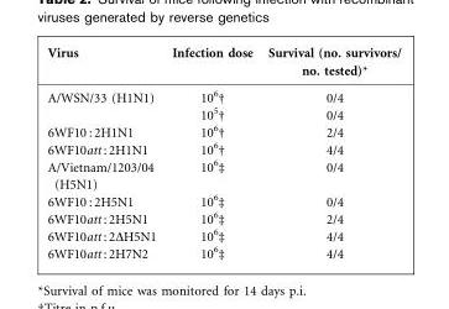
<table><thead><tr><td>Virus</td><td>Infection dose</td><td>Survival (no. survivors/ no. tested)*</td></tr></thead><tbody><tr><td rowspan="2">A/WSN/33 (H1N1)</td><td>10<sup>6</sup>†</td><td>0/4</td></tr><tr><td>10<sup>5</sup>†</td><td>0/4</td></tr><tr><td>6WF10 : 2H1N1</td><td>10<sup>6</sup>†</td><td>2/4</td></tr><tr><td>6WF10att : 2H1N1</td><td>10<sup>6</sup>†</td><td>4/4</td></tr><tr><td>A/Vietnam/1203/04 (H5N1)</td><td>10<sup>6</sup>‡</td><td>0/4</td></tr><tr><td>6WF10 : 2H5N1</td><td>10<sup>6</sup>‡</td><td>0/4</td></tr><tr><td>6WF10att : 2H5N1</td><td>10<sup>6</sup>‡</td><td>2/4</td></tr><tr><td>6WF10att : 2ΔH5N1</td><td>10<sup>6</sup>‡</td><td>4/4</td></tr><tr><td>6WF10att : 2H7N2</td><td>10<sup>6</sup>‡</td><td>4/4</td></tr></tbody></table>